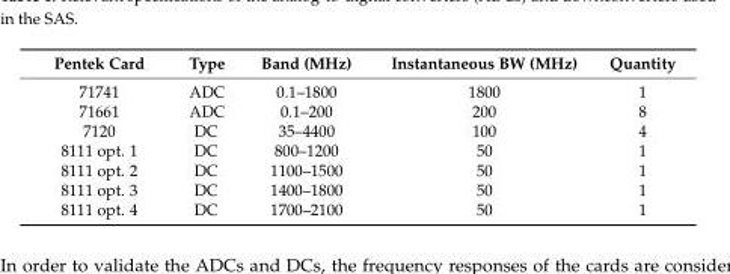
<table><thead><tr><td>Pentek Card</td><td>Type</td><td>Band (MHz)</td><td>Instantaneous BW (MHz)</td><td>Quantity</td></tr></thead><tbody><tr><td>71741</td><td>ADC</td><td>0.1–1800</td><td>1800</td><td>1</td></tr><tr><td>71661</td><td>ADC</td><td>0.1–200</td><td>200</td><td>8</td></tr><tr><td>7120</td><td>DC</td><td>35–4400</td><td>100</td><td>4</td></tr><tr><td>8111 opt. 1</td><td>DC</td><td>800–1200</td><td>50</td><td>1</td></tr><tr><td>8111 opt. 2</td><td>DC</td><td>1100–1500</td><td>50</td><td>1</td></tr><tr><td>8111 opt. 3</td><td>DC</td><td>1400–1800</td><td>50</td><td>1</td></tr><tr><td>8111 opt. 4</td><td>DC</td><td>1700–2100</td><td>50</td><td>1</td></tr></tbody></table>